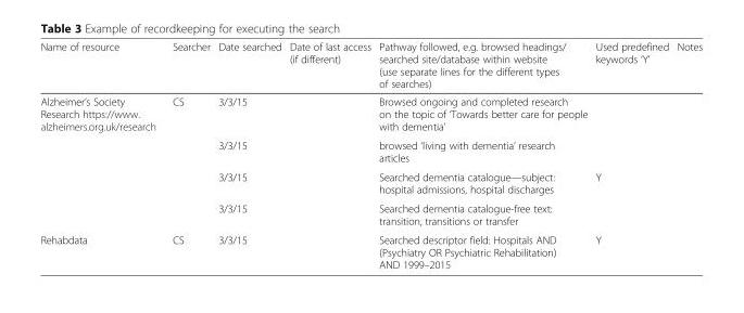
<table><thead><tr><td>Name of resource</td><td>Searcher</td><td>Date searched</td><td>Date of last access (if different)</td><td>Pathway followed, e.g. browsed headings/ searched site/database within website (use separate lines for the different types of searches)</td><td>Used predefined keywords ‘Y’</td><td>Notes</td></tr></thead><tbody><tr><td rowspan="4">Alzheimer’s Society Research https://www. alzheimers.org.uk/research</td><td rowspan="4">CS</td><td>3/3/15</td><td></td><td>Browsed ongoing and completed research on the topic of ‘Towards better care for people with dementia’</td><td></td><td rowspan="4"></td></tr><tr><td>3/3/15</td><td></td><td>browsed ‘living with dementia’ research articles</td><td></td></tr><tr><td>3/3/15</td><td></td><td>Searched dementia catalogue—subject: hospital admissions, hospital discharges</td><td>Y</td></tr><tr><td>3/3/15</td><td></td><td>Searched dementia catalogue-free text: transition, transitions or transfer</td><td></td></tr><tr><td>Rehabdata</td><td>CS</td><td>3/3/15</td><td></td><td>Searched descriptor field: Hospitals AND (Psychiatry OR Psychiatric Rehabilitation) AND 1999–2015</td><td>Y</td><td></td></tr></tbody></table>